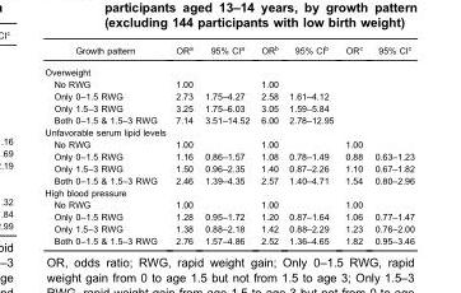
<table><thead><tr><td>Growth pattern</td><td>OR<sup>a</sup></td><td>95% CI<sup>a</sup></td><td>OR<sup>b</sup></td><td>95% CI<sup>b</sup></td><td>OR<sup>c</sup></td><td>95% CI<sup>c</sup></td></tr></thead><tbody><tr><td colspan="7">Overweight</td></tr><tr><td>No RWG</td><td>1.00</td><td></td><td>1.00</td><td></td><td></td><td></td></tr><tr><td>Only 0–1.5 RWG</td><td>2.73</td><td>1.75–4.27</td><td>2.58</td><td>1.61–4.12</td><td></td><td></td></tr><tr><td>Only 1.5–3 RWG</td><td>3.25</td><td>1.75–6.03</td><td>3.05</td><td>1.59–5.84</td><td></td><td></td></tr><tr><td>Both 0–1.5 &amp; 1.5–3 RWG</td><td>7.14</td><td>3.51–14.52</td><td>6.00</td><td>2.78–12.95</td><td></td><td></td></tr><tr><td colspan="7">Unfavorable serum lipid levels</td></tr><tr><td>No RWG</td><td>1.00</td><td></td><td>1.00</td><td></td><td>1.00</td><td></td></tr><tr><td>Only 0–1.5 RWG</td><td>1.16</td><td>0.86–1.57</td><td>1.08</td><td>0.78–1.49</td><td>0.88</td><td>0.63–1.23</td></tr><tr><td>Only 1.5–3 RWG</td><td>1.50</td><td>0.96–2.35</td><td>1.40</td><td>0.87–2.26</td><td>1.10</td><td>0.67–1.82</td></tr><tr><td>Both 0–1.5 &amp; 1.5–3 RWG</td><td>2.46</td><td>1.39–4.35</td><td>2.57</td><td>1.40–4.71</td><td>1.54</td><td>0.80–2.96</td></tr><tr><td colspan="7">High blood pressure</td></tr><tr><td>No RWG</td><td>1.00</td><td></td><td>1.00</td><td></td><td>1.00</td><td></td></tr><tr><td>Only 0–1.5 RWG</td><td>1.28</td><td>0.95–1.72</td><td>1.20</td><td>0.87–1.64</td><td>1.06</td><td>0.77–1.47</td></tr><tr><td>Only 1.5–3 RWG</td><td>1.38</td><td>0.88–2.18</td><td>1.42</td><td>0.88–2.29</td><td>1.23</td><td>0.76–2.00</td></tr><tr><td>Both 0–1.5 &amp; 1.5–3 RWG</td><td>2.76</td><td>1.57–4.86</td><td>2.52</td><td>1.36–4.65</td><td>1.82</td><td>0.95–3.46</td></tr></tbody></table>